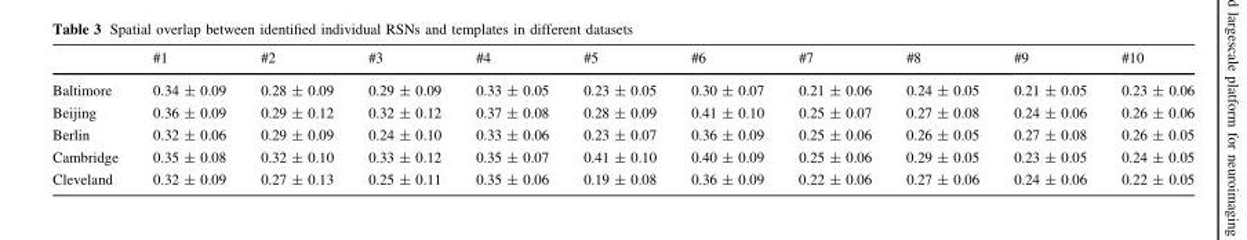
<table><thead><tr><td></td><td>#1</td><td>#2</td><td>#3</td><td>#4</td><td>#5</td><td>#6</td><td>#7</td><td>#8</td><td>#9</td><td>#10</td></tr></thead><tbody><tr><td>Baltimore</td><td>0.34 ± 0.09</td><td>0.28 ± 0.09</td><td>0.29 ± 0.09</td><td>0.33 ± 0.05</td><td>0.23 ± 0.05</td><td>0.30 ± 0.07</td><td>0.21 ± 0.06</td><td>0.24 ± 0.05</td><td>0.21 ± 0.05</td><td>0.23 ± 0.06</td></tr><tr><td>Beijing</td><td>0.36 ± 0.09</td><td>0.29 ± 0.12</td><td>0.32 ± 0.12</td><td>0.37 ± 0.08</td><td>0.28 ± 0.09</td><td>0.41 ± 0.10</td><td>0.25 ± 0.07</td><td>0.27 ± 0.08</td><td>0.24 ± 0.06</td><td>0.26 ± 0.06</td></tr><tr><td>Berlin</td><td>0.32 ± 0.06</td><td>0.29 ± 0.09</td><td>0.24 ± 0.10</td><td>0.33 ± 0.06</td><td>0.23 ± 0.07</td><td>0.36 ± 0.09</td><td>0.25 ± 0.06</td><td>0.26 ± 0.05</td><td>0.27 ± 0.08</td><td>0.26 ± 0.05</td></tr><tr><td>Cambridge</td><td>0.35 ± 0.08</td><td>0.32 ± 0.10</td><td>0.33 ± 0.12</td><td>0.35 ± 0.07</td><td>0.41 ± 0.10</td><td>0.40 ± 0.09</td><td>0.25 ± 0.06</td><td>0.29 ± 0.05</td><td>0.23 ± 0.05</td><td>0.24 ± 0.05</td></tr><tr><td>Cleveland</td><td>0.32 ± 0.09</td><td>0.27 ± 0.13</td><td>0.25 ± 0.11</td><td>0.35 ± 0.06</td><td>0.19 ± 0.08</td><td>0.36 ± 0.09</td><td>0.22 ± 0.06</td><td>0.27 ± 0.06</td><td>0.24 ± 0.06</td><td>0.22 ± 0.05</td></tr></tbody></table>